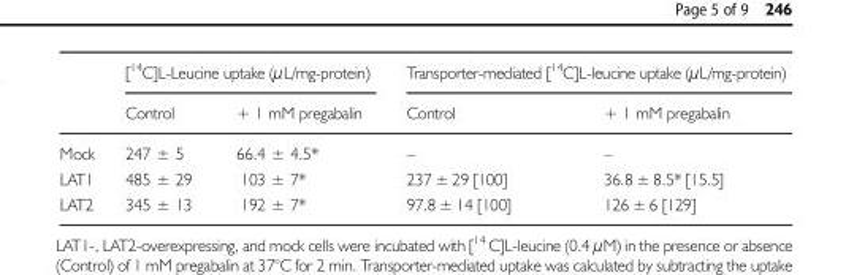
<table><thead><tr><td rowspan="2"></td><td colspan="2">[<sup>14</sup>C]L-Leucine uptake (μL/mg-protein)</td><td colspan="2">Transporter-mediated [<sup>14</sup>C]L-leucine uptake (μL/mg-protein)</td></tr><tr><td>Control</td><td>+ 1 mM pregabalin</td><td>Control</td><td>+ 1 mM pregabalin</td></tr></thead><tbody><tr><td>Mock</td><td>247 ± 5</td><td>66.4 ± 4.5*</td><td>–</td><td>–</td></tr><tr><td>LAT1</td><td>485 ± 29</td><td>103 ± 7*</td><td>237 ± 29 [100]</td><td>36.8 ± 8.5* [15.5]</td></tr><tr><td>LAT2</td><td>345 ± 13</td><td>192 ± 7*</td><td>97.8 ± 14 [100]</td><td>126 ± 6 [129]</td></tr></tbody></table>